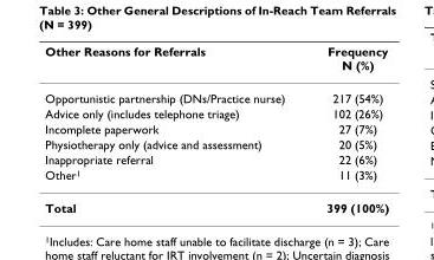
<table><thead><tr><td>Other Reasons for Referrals</td><td>Frequency N (%)</td></tr></thead><tbody><tr><td>Opportunistic partnership (DNs/Practice nurse)</td><td>217 (54%)</td></tr><tr><td>Advice only (includes telephone triage)</td><td>102 (26%)</td></tr><tr><td>Incomplete paperwork</td><td>27 (7%)</td></tr><tr><td>Physiotherapy only (advice and assessment)</td><td>20 (5%)</td></tr><tr><td>Inappropriate referral</td><td>22 (6%)</td></tr><tr><td>Other<sup>1</sup></td><td>11 (3%)</td></tr><tr><td>Total</td><td>399 (100%)</td></tr></tbody></table>